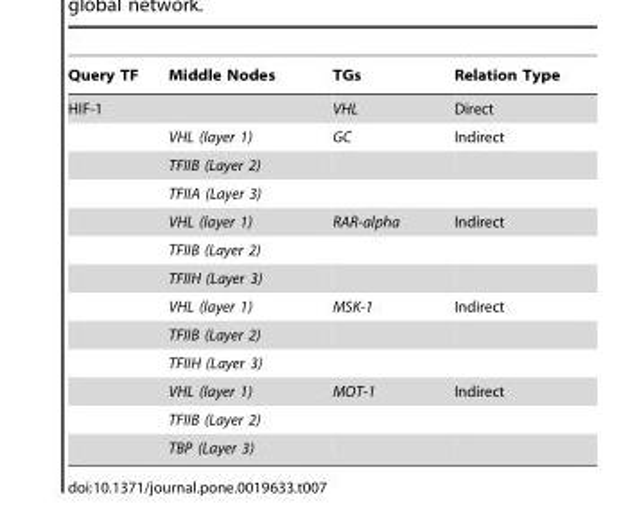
<table><thead><tr><td>Query TF</td><td>Middle Nodes</td><td>TGs</td><td>Relation Type</td></tr></thead><tbody><tr><td rowspan="13">HIF-1</td><td></td><td>VHL</td><td>Direct</td></tr><tr><td>VHL (layer 1)</td><td>GC</td><td>Indirect</td></tr><tr><td>TFIIB (Layer 2)</td><td></td><td></td></tr><tr><td>TFIIA (Layer 3)</td><td></td><td></td></tr><tr><td>VHL (layer 1)</td><td>RAR-alpha</td><td>Indirect</td></tr><tr><td>TFIIB (Layer 2)</td><td></td><td></td></tr><tr><td>TFIIH (Layer 3)</td><td></td><td></td></tr><tr><td>VHL (layer 1)</td><td>MSK-1</td><td>Indirect</td></tr><tr><td>TFIIB (Layer 2)</td><td></td><td></td></tr><tr><td>TFIIH (Layer 3)</td><td></td><td></td></tr><tr><td>VHL (layer 1)</td><td>MOT-1</td><td>Indirect</td></tr><tr><td>TFIIB (Layer 2)</td><td></td><td></td></tr><tr><td>TBP (Layer 3)</td><td></td><td></td></tr></tbody></table>